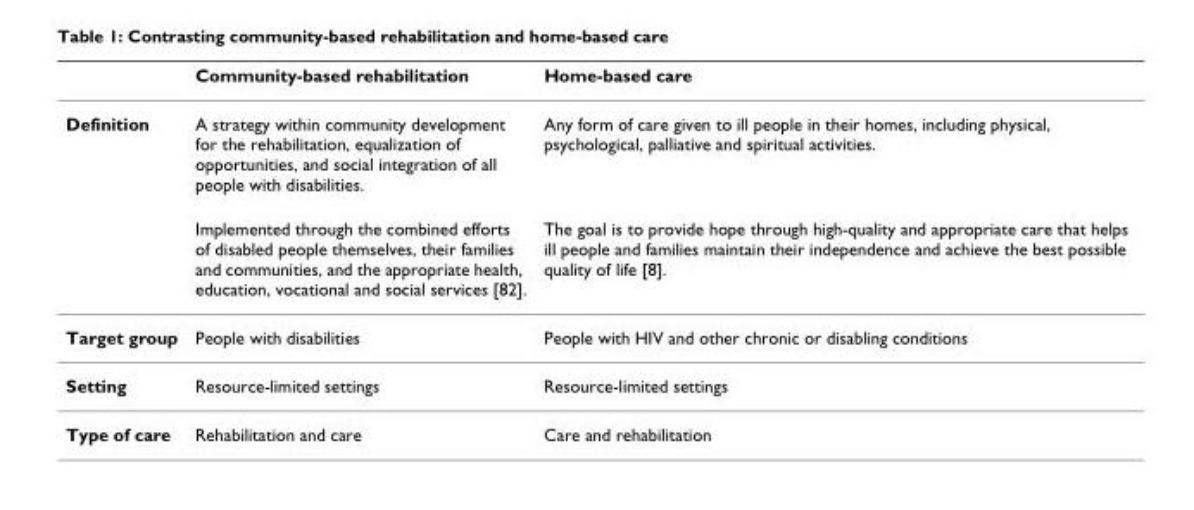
<table><thead><tr><td></td><td>Community-based rehabilitation</td><td>Home-based care</td></tr></thead><tbody><tr><td rowspan="2">Definition</td><td>A strategy within community development for the rehabilitation, equalization of opportunities, and social integration of all people with disabilities.</td><td>Any form of care given to ill people in their homes, including physical, psychological, palliative and spiritual activities.</td></tr><tr><td>Implemented through the combined efforts of disabled people themselves, their families and communities, and the appropriate health, education, vocational and social services [82].</td><td>The goal is to provide hope through high-quality and appropriate care that helps ill people and families maintain their independence and achieve the best possible quality of life [8].</td></tr><tr><td>Target group</td><td>People with disabilities</td><td>People with HIV and other chronic or disabling conditions</td></tr><tr><td>Setting</td><td>Resource-limited settings</td><td>Resource-limited settings</td></tr><tr><td>Type of care</td><td>Rehabilitation and care</td><td>Care and rehabilitation</td></tr></tbody></table>